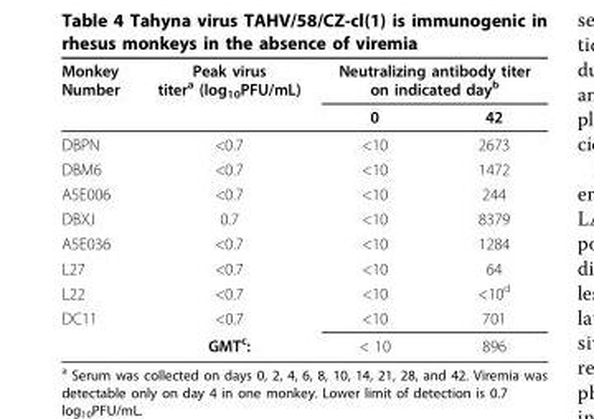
<table><thead><tr><td rowspan="2">Monkey Number</td><td rowspan="2">Peak virus titer<sup>a</sup> (log<sub>10</sub>PFU/mL)</td><td colspan="2">Neutralizing antibody titer on indicated day<sup>b</sup></td></tr><tr><td>0</td><td>42</td></tr></thead><tbody><tr><td>DBPN</td><td>&lt;0.7</td><td>&lt;10</td><td>2673</td></tr><tr><td>DBM6</td><td>&lt;0.7</td><td>&lt;10</td><td>1472</td></tr><tr><td>A5E006</td><td>&lt;0.7</td><td>&lt;10</td><td>244</td></tr><tr><td>DBXJ</td><td>0.7</td><td>&lt;10</td><td>8379</td></tr><tr><td>A5E036</td><td>&lt;0.7</td><td>&lt;10</td><td>1284</td></tr><tr><td>L27</td><td>&lt;0.7</td><td>&lt;10</td><td>64</td></tr><tr><td>L22</td><td>&lt;0.7</td><td>&lt;10</td><td>&lt;10<sup>d</sup></td></tr><tr><td rowspan="2">DC11</td><td>&lt;0.7</td><td>&lt;10</td><td>701</td></tr><tr><td>GMT<sup>c</sup>:</td><td>&lt; 10</td><td>896</td></tr></tbody></table>